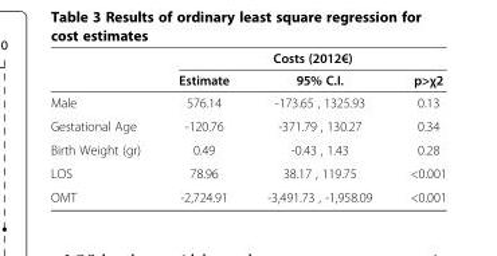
<table><thead><tr><td rowspan="2"></td><td colspan="3">Costs (2012€)</td></tr><tr><td>Estimate</td><td>95% C.I.</td><td>p&gt;χ2</td></tr></thead><tbody><tr><td>Male</td><td>576.14</td><td>-173.65 , 1325.93</td><td>0.13</td></tr><tr><td>Gestational Age</td><td>-120.76</td><td>-371.79 , 130.27</td><td>0.34</td></tr><tr><td>Birth Weight (gr)</td><td>0.49</td><td>-0.43 , 1.43</td><td>0.28</td></tr><tr><td>LOS</td><td>78.96</td><td>38.17 , 119.75</td><td>&lt;0.001</td></tr><tr><td>OMT</td><td>-2,724.91</td><td>-3,491.73 , -1,958.09</td><td>&lt;0.001</td></tr></tbody></table>